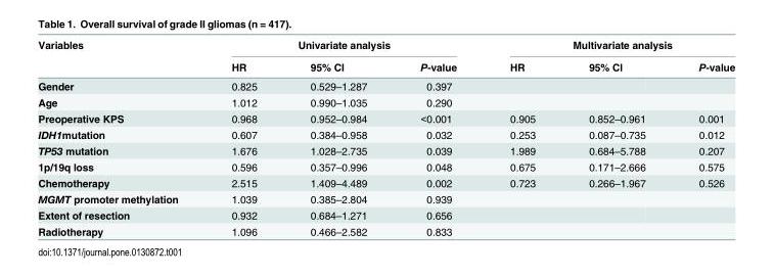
<table><thead><tr><td rowspan="2">Variables</td><td colspan="3">Univariate analysis</td><td colspan="3">Multivariate analysis</td></tr><tr><td>HR</td><td>95% CI</td><td>P-value</td><td>HR</td><td>95% Cl</td><td>P-value</td></tr></thead><tbody><tr><td>Gender</td><td>0.825</td><td>0.529–1.287</td><td>0.397</td><td></td><td></td><td></td></tr><tr><td>Age</td><td>1.012</td><td>0.990–1.035</td><td>0.290</td><td></td><td></td><td></td></tr><tr><td>Preoperative KPS</td><td>0.968</td><td>0.952–0.984</td><td>&lt;0.001</td><td>0.905</td><td>0.852–0.961</td><td>0.001</td></tr><tr><td>IDH1mutation</td><td>0.607</td><td>0.384–0.958</td><td>0.032</td><td>0.253</td><td>0.087–0.735</td><td>0.012</td></tr><tr><td>TP53 mutation</td><td>1.676</td><td>1.028–2.735</td><td>0.039</td><td>1.989</td><td>0.684–5.788</td><td>0.207</td></tr><tr><td>1p/19q loss</td><td>0.596</td><td>0.357–0.996</td><td>0.048</td><td>0.675</td><td>0.171–2.666</td><td>0.575</td></tr><tr><td>Chemotherapy</td><td>2.515</td><td>1.409–4.489</td><td>0.002</td><td>0.723</td><td>0.266–1.967</td><td>0.526</td></tr><tr><td>MGMT promoter methylation</td><td>1.039</td><td>0.385–2.804</td><td>0.939</td><td></td><td></td><td></td></tr><tr><td>Extent of resection</td><td>0.932</td><td>0.684–1.271</td><td>0.656</td><td></td><td></td><td></td></tr><tr><td>Radiotherapy</td><td>1.096</td><td>0.466–2.582</td><td>0.833</td><td></td><td></td><td></td></tr></tbody></table>